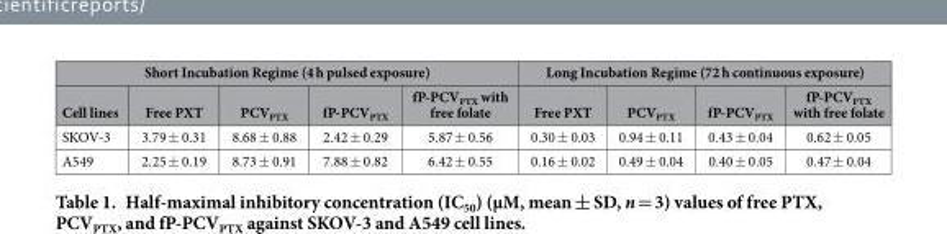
<table><thead><tr><td colspan="5">Short Incubation Regime (4 h pulsed exposure)</td><td colspan="4">Long Incubation Regime (72 h continuous exposure)</td></tr><tr><td>Cell lines</td><td>Free PXT</td><td>PCV<sub>PTX</sub></td><td>fP-PCV<sub>PTX</sub></td><td>fP-PCV<sub>PTX</sub> with free folate</td><td>Free PXT</td><td>PCV<sub>PTX</sub></td><td>fP-PCV<sub>PTX</sub></td><td>fP-PCV<sub>PTX</sub> with free folate</td></tr></thead><tbody><tr><td>SKOV-3</td><td>3.79 ± 0.31</td><td>8.68 ± 0.88</td><td>2.42 ± 0.29</td><td>5.87 ± 0.56</td><td>0.30 ± 0.03</td><td>0.94 ± 0.11</td><td>0.43 ± 0.04</td><td>0.62 ± 0.05</td></tr><tr><td>A549</td><td>2.25 ± 0.19</td><td>8.73 ± 0.91</td><td>7.88 ± 0.82</td><td>6.42 ± 0.55</td><td>0.16 ± 0.02</td><td>0.49 ± 0.04</td><td>0.40 ± 0.05</td><td>0.47 ± 0.04</td></tr></tbody></table>